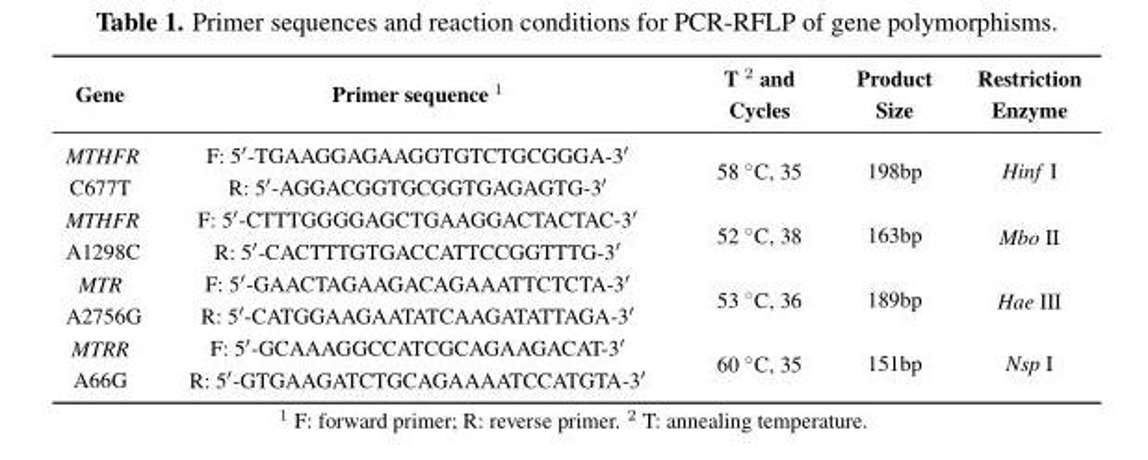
<table><thead><tr><td>Gene</td><td>Primer sequence <sup>1</sup></td><td>T <sup>2</sup> and Cycles</td><td>Product Size</td><td>Restriction Enzyme</td></tr></thead><tbody><tr><td rowspan="2">MTHFR C677T</td><td>F: 5′-TGAAGGAGAAGGTGTCTGCGGGA-3′</td><td rowspan="2">58 ˝C, 35</td><td rowspan="2">198bp</td><td rowspan="2">Hinf I</td></tr><tr><td>R: 5′-AGGACGGTGCGGTGAGAGTG-3′</td></tr><tr><td rowspan="2">MTHFR A1298C</td><td>F: 5′-CTTTGGGGAGCTGAAGGACTACTAC-3′</td><td rowspan="2">52 ˝C, 38</td><td rowspan="2">163bp</td><td rowspan="2">Mbo II</td></tr><tr><td>R: 5′-CACTTTGTGACCATTCCGGTTTG-3′</td></tr><tr><td rowspan="2">MTR A2756G</td><td>F: 5′-GAACTAGAAGACAGAAATTCTCTA-3′</td><td rowspan="2">53 ˝C, 36</td><td rowspan="2">189bp</td><td rowspan="2">Hae III</td></tr><tr><td>R: 5′-CATGGAAGAATATCAAGATATTAGA-3′</td></tr><tr><td rowspan="2">MTRR A66G</td><td>F: 5′-GCAAAGGCCATCGCAGAAGACAT-3′</td><td rowspan="2">60 ˝C, 35</td><td rowspan="2">151bp</td><td rowspan="2">Nsp I</td></tr><tr><td>R: 5′-GTGAAGATCTGCAGAAAATCCATGTA-3′</td></tr></tbody></table>